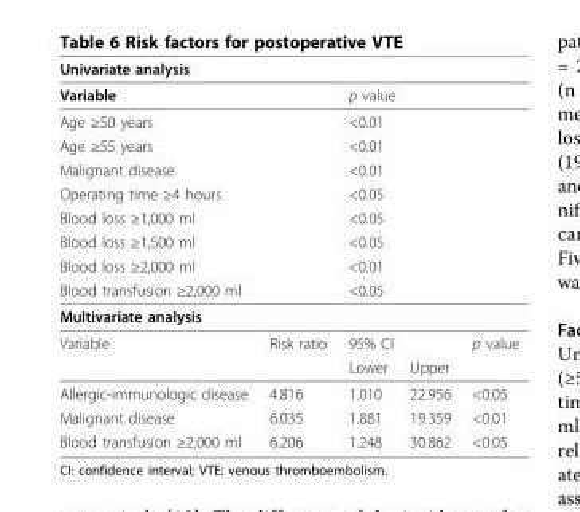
<table><thead><tr><td colspan="2">Univariate analysis</td><td></td><td></td><td></td></tr></thead><tbody><tr><td colspan="2">Variable</td><td colspan="3">p value</td></tr><tr><td colspan="2">Age ≥50 years</td><td colspan="3">&lt;0.01</td></tr><tr><td colspan="2">Age ≥55 years</td><td colspan="3">&lt;0.01</td></tr><tr><td colspan="2">Malignant disease</td><td colspan="3">&lt;0.01</td></tr><tr><td colspan="2">Operating time ≥4 hours</td><td colspan="3">&lt;0.05</td></tr><tr><td colspan="2">Blood loss ≥1,000 ml</td><td colspan="3">&lt;0.05</td></tr><tr><td colspan="2">Blood loss ≥1,500 ml</td><td colspan="3">&lt;0.05</td></tr><tr><td colspan="2">Blood loss ≥2,000 ml</td><td colspan="3">&lt;0.01</td></tr><tr><td colspan="2">Blood transfusion ≥2,000 ml</td><td colspan="3">&lt;0.05</td></tr><tr><td colspan="5">Multivariate analysis</td></tr><tr><td rowspan="2">Variable</td><td>Risk ratio</td><td colspan="2">95% CI</td><td>p value</td></tr><tr><td></td><td>Lower</td><td>Upper</td><td></td></tr><tr><td>Allergic-immunologic disease</td><td>4.816</td><td>1.010</td><td>22.956</td><td>&lt;0.05</td></tr><tr><td>Malignant disease</td><td>6.035</td><td>1.881</td><td>19.359</td><td>&lt;0.01</td></tr><tr><td>Blood transfusion ≥2,000 ml</td><td>6.206</td><td>1.248</td><td>30.862</td><td>&lt;0.05</td></tr></tbody></table>